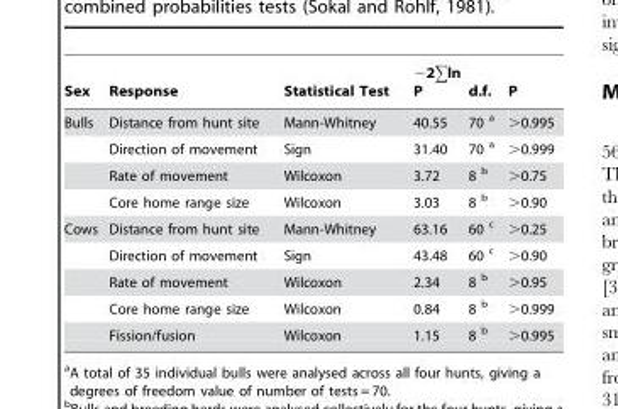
<table><thead><tr><td>Sex</td><td>Response</td><td>Statistical Test</td><td>−2∑ln P</td><td>d.f.</td><td>P</td></tr></thead><tbody><tr><td rowspan="4">Bulls</td><td>Distance from hunt site</td><td>Mann-Whitney</td><td>40.55</td><td>70 a</td><td>&gt;0.995</td></tr><tr><td>Direction of movement</td><td>Sign</td><td>31.40</td><td>70 a</td><td>&gt;0.999</td></tr><tr><td>Rate of movement</td><td>Wilcoxon</td><td>3.72</td><td>8 b</td><td>&gt;0.75</td></tr><tr><td>Core home range size</td><td>Wilcoxon</td><td>3.03</td><td>8 b</td><td>&gt;0.90</td></tr><tr><td rowspan="5">Cows</td><td>Distance from hunt site</td><td>Mann-Whitney</td><td>63.16</td><td>60 c</td><td>&gt;0.25</td></tr><tr><td>Direction of movement</td><td>Sign</td><td>43.48</td><td>60 c</td><td>&gt;0.90</td></tr><tr><td>Rate of movement</td><td>Wilcoxon</td><td>2.34</td><td>8 b</td><td>&gt;0.95</td></tr><tr><td>Core home range size</td><td>Wilcoxon</td><td>0.84</td><td>8 b</td><td>&gt;0.999</td></tr><tr><td>Fission/fusion</td><td>Wilcoxon</td><td>1.15</td><td>8 b</td><td>&gt;0.995</td></tr></tbody></table>